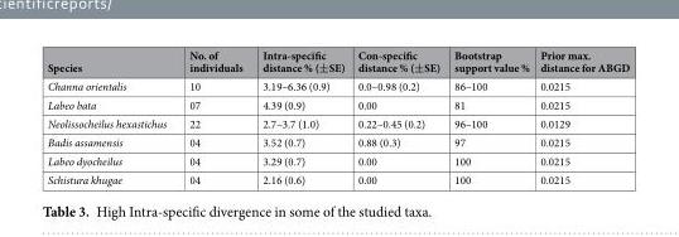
<table><thead><tr><td>Species</td><td>No. of individuals</td><td>Intra-specific distance % (±SE)</td><td>Con-specific distance % (±SE)</td><td>Bootstrap support value %</td><td>Prior max. distance for ABGD</td></tr></thead><tbody><tr><td>Channa orientalis</td><td>10</td><td>3.19–6.36 (0.9)</td><td>0.0–0.98 (0.2)</td><td>86–100</td><td>0.0215</td></tr><tr><td>Labeo bata</td><td>07</td><td>4.39 (0.9)</td><td>0.00</td><td>81</td><td>0.0215</td></tr><tr><td>Neolissocheilus hexastichus</td><td>22</td><td>2.7–3.7 (1.0)</td><td>0.22–0.45 (0.2)</td><td>96–100</td><td>0.0129</td></tr><tr><td>Badis assamensis</td><td>04</td><td>3.52 (0.7)</td><td>0.88 (0.3)</td><td>97</td><td>0.0215</td></tr><tr><td>Labeo dyocheilus</td><td>04</td><td>3.29 (0.7)</td><td>0.00</td><td>100</td><td>0.0215</td></tr><tr><td>Schistura khugae</td><td>04</td><td>2.16 (0.6)</td><td>0.00</td><td>100</td><td>0.0215</td></tr></tbody></table>